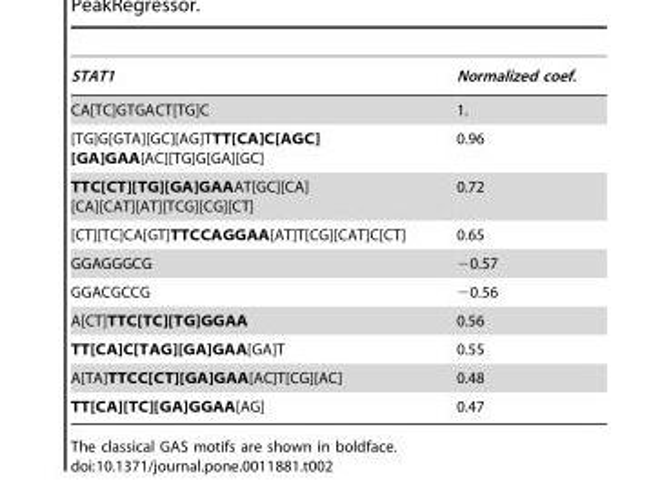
<table><thead><tr><td>STAT1</td><td>Normalized coef.</td></tr></thead><tbody><tr><td>CA[TC]GTGACT[TG]C</td><td>1.</td></tr><tr><td>[TG]G[GTA][GC][AG]TTT[CA]C[AGC] [GA]GAA[AC][TG]G[GA][GC]</td><td>0.96</td></tr><tr><td>TTC[CT][TG][GA]GAAAT[GC][CA] [CA][CAT][AT][TCG][CG][CT]</td><td>0.72</td></tr><tr><td>[CT][TC]CA[GT]TTCCAGGAA[AT]T[CG][CAT]C[CT]</td><td>0.65</td></tr><tr><td>GGAGGGCG</td><td>−0.57</td></tr><tr><td>GGACGCCG</td><td>−0.56</td></tr><tr><td>A[CT]TTC[TC][TG]GGAA</td><td>0.56</td></tr><tr><td>TT[CA]C[TAG][GA]GAA[GA]T</td><td>0.55</td></tr><tr><td>A[TA]TTCC[CT][GA]GAA[AC]T[CG][AC]</td><td>0.48</td></tr><tr><td>TT[CA][TC][GA]GGAA[AG]</td><td>0.47</td></tr></tbody></table>